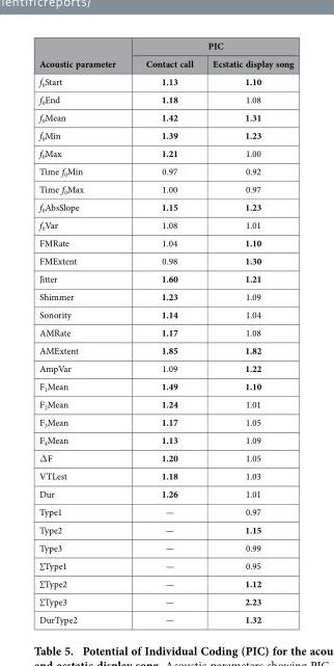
<table><thead><tr><td rowspan="2">Acoustic parameter</td><td colspan="2">PIC</td></tr><tr><td>Contact call</td><td>Ecstatic display song</td></tr></thead><tbody><tr><td>f<sub>0</sub>Start</td><td>1.13</td><td>1.10</td></tr><tr><td>f<sub>0</sub>End</td><td>1.18</td><td>1.08</td></tr><tr><td>f<sub>0</sub>Mean</td><td>1.42</td><td>1.31</td></tr><tr><td>f<sub>0</sub>Min</td><td>1.39</td><td>1.23</td></tr><tr><td>f<sub>0</sub>Max</td><td>1.21</td><td>1.00</td></tr><tr><td>Time f<sub>0</sub>Min</td><td>0.97</td><td>0.92</td></tr><tr><td>Time f<sub>0</sub>Max</td><td>1.00</td><td>0.97</td></tr><tr><td>f<sub>0</sub>AbsSlope</td><td>1.15</td><td>1.23</td></tr><tr><td>f<sub>0</sub>Var</td><td>1.08</td><td>1.01</td></tr><tr><td>FMRate</td><td>1.04</td><td>1.10</td></tr><tr><td>FMExtent</td><td>0.98</td><td>1.30</td></tr><tr><td>Jitter</td><td>1.60</td><td>1.21</td></tr><tr><td>Shimmer</td><td>1.23</td><td>1.09</td></tr><tr><td>Sonority</td><td>1.14</td><td>1.04</td></tr><tr><td>AMRate</td><td>1.17</td><td>1.08</td></tr><tr><td>AMExtent</td><td>1.85</td><td>1.82</td></tr><tr><td>AmpVar</td><td>1.09</td><td>1.22</td></tr><tr><td>F<sub>1</sub>Mean</td><td>1.49</td><td>1.10</td></tr><tr><td>F<sub>2</sub>Mean</td><td>1.24</td><td>1.01</td></tr><tr><td>F<sub>3</sub>Mean</td><td>1.17</td><td>1.05</td></tr><tr><td>F<sub>4</sub>Mean</td><td>1.13</td><td>1.09</td></tr><tr><td>Δ F</td><td>1.20</td><td>1.05</td></tr><tr><td>VTLest</td><td>1.18</td><td>1.03</td></tr><tr><td>Dur</td><td>1.26</td><td>1.01</td></tr><tr><td>Type1</td><td>—</td><td>0.97</td></tr><tr><td>Type2</td><td>—</td><td>1.15</td></tr><tr><td>Type3</td><td>—</td><td>0.99</td></tr><tr><td>∑Type1</td><td>—</td><td>0.95</td></tr><tr><td>∑Type2</td><td>—</td><td>1.12</td></tr><tr><td>∑Type3</td><td>—</td><td>2.23</td></tr><tr><td>DurType2</td><td>—</td><td>1.32</td></tr></tbody></table>